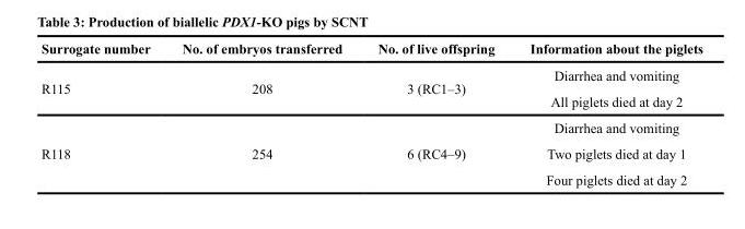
<table><thead><tr><td>Surrogate number</td><td>No. of embryos transferred</td><td>No. of live offspring</td><td>Information about the piglets</td></tr></thead><tbody><tr><td rowspan="2">R115</td><td rowspan="2">208</td><td rowspan="2">3 (RC1–3)</td><td>Diarrhea and vomiting</td></tr><tr><td>All piglets died at day 2</td></tr><tr><td rowspan="3">R118</td><td rowspan="3">254</td><td rowspan="3">6 (RC4–9)</td><td>Diarrhea and vomiting</td></tr><tr><td>Two piglets died at day 1</td></tr><tr><td>Four piglets died at day 2</td></tr></tbody></table>